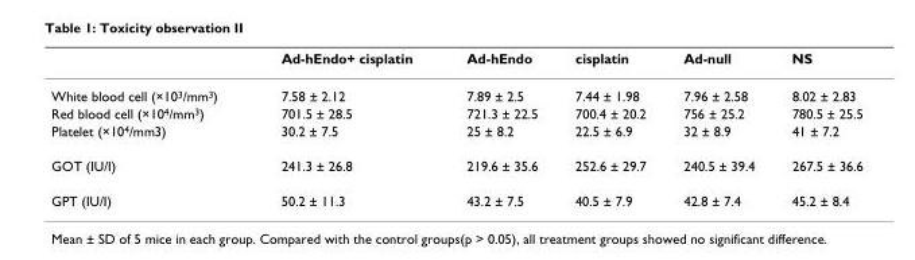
<table><thead><tr><td></td><td>Ad-hEndo+ cisplatin</td><td>Ad-hEndo</td><td>cisplatin</td><td>Ad-null</td><td>NS</td></tr></thead><tbody><tr><td>White blood cell (×10<sup>3</sup>/mm<sup>3</sup>)</td><td>7.58 ± 2.12</td><td>7.89 ± 2.5</td><td>7.44 ± 1.98</td><td>7.96 ± 2.58</td><td>8.02 ± 2.83</td></tr><tr><td>Red blood cell (×10<sup>4</sup>/mm<sup>3</sup>)</td><td>701.5 ± 28.5</td><td>721.3 ± 22.5</td><td>700.4 ± 20.2</td><td>756 ± 25.2</td><td>780.5 ± 25.5</td></tr><tr><td>Platelet (×10<sup>4</sup>/mm3)</td><td>30.2 ± 7.5</td><td>25 ± 8.2</td><td>22.5 ± 6.9</td><td>32 ± 8.9</td><td>41 ± 7.2</td></tr><tr><td>GOT (IU/I)</td><td>241.3 ± 26.8</td><td>219.6 ± 35.6</td><td>252.6 ± 29.7</td><td>240.5 ± 39.4</td><td>267.5 ± 36.6</td></tr><tr><td>GPT (IU/I)</td><td>50.2 ± 11.3</td><td>43.2 ± 7.5</td><td>40.5 ± 7.9</td><td>42.8 ± 7.4</td><td>45.2 ± 8.4</td></tr></tbody></table>